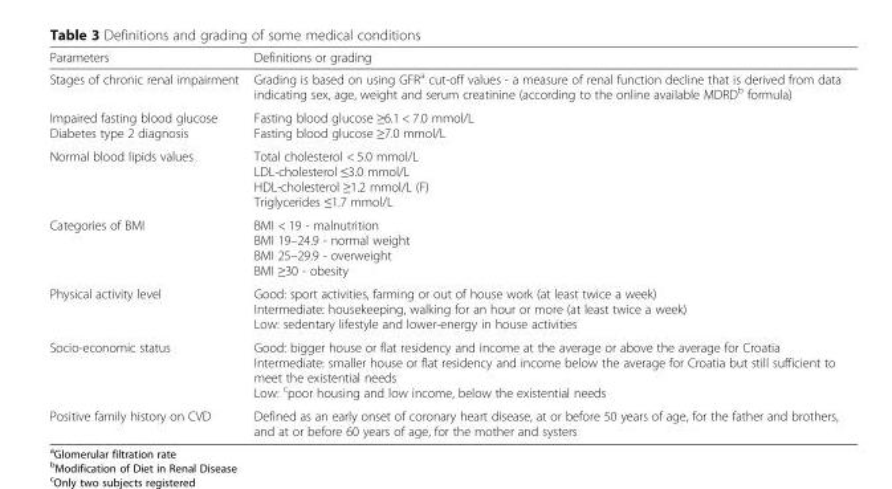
<table><thead><tr><td>Parameters</td><td>Definitions or grading</td></tr></thead><tbody><tr><td>Stages of chronic renal impairment</td><td>Grading is based on using GFR<sup>a</sup> cut-off values - a measure of renal function decline that is derived from data indicating sex, age, weight and serum creatinine (according to the online available MDRD<sup>b</sup> formula)</td></tr><tr><td>Impaired fasting blood glucose Diabetes type 2 diagnosis</td><td>Fasting blood glucose ≥6.1 &lt; 7.0 mmol/L Fasting blood glucose ≥7.0 mmol/L</td></tr><tr><td>Normal blood lipids values</td><td>Total cholesterol &lt; 5.0 mmol/L LDL-cholesterol ≤3.0 mmol/L HDL-cholesterol ≥1.2 mmol/L (F) Triglycerides ≤1.7 mmol/L</td></tr><tr><td>Categories of BMI</td><td>BMI &lt; 19 - malnutrition BMI 19–24.9 - normal weight BMI 25–29.9 - overweight BMI ≥30 - obesity</td></tr><tr><td>Physical activity level</td><td>Good: sport activities, farming or out of house work (at least twice a week) Intermediate: housekeeping, walking for an hour or more (at least twice a week) Low: sedentary lifestyle and lower-energy in house activities</td></tr><tr><td>Socio-economic status</td><td>Good: bigger house or flat residency and income at the average or above the average for Croatia Intermediate: smaller house or flat residency and income below the average for Croatia but still sufficient to meet the existential needs Low: <sup>c</sup>poor housing and low income, below the existential needs</td></tr><tr><td>Positive family history on CVD</td><td>Defined as an early onset of coronary heart disease, at or before 50 years of age, for the father and brothers, and at or before 60 years of age, for the mother and systers</td></tr></tbody></table>